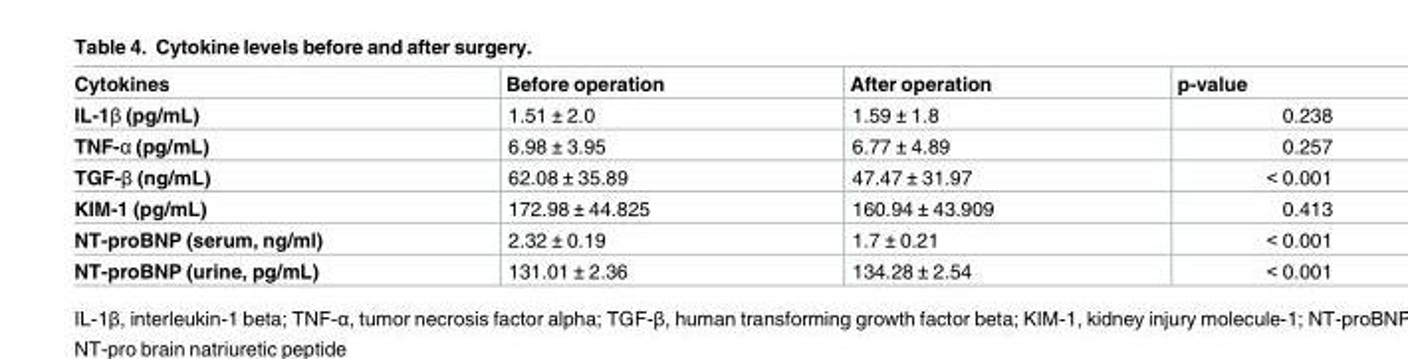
<table><thead><tr><td>Cytokines</td><td>Before operation</td><td>After operation</td><td>p-value</td></tr></thead><tbody><tr><td>IL-1β (pg/mL)</td><td>1.51 ± 2.0</td><td>1.59 ± 1.8</td><td>0.238</td></tr><tr><td>TNF-α (pg/mL)</td><td>6.98 ± 3.95</td><td>6.77 ± 4.89</td><td>0.257</td></tr><tr><td>TGF-β (ng/mL)</td><td>62.08 ± 35.89</td><td>47.47 ± 31.97</td><td>&lt; 0.001</td></tr><tr><td>KIM-1 (pg/mL)</td><td>172.98 ± 44.825</td><td>160.94 ± 43.909</td><td>0.413</td></tr><tr><td>NT-proBNP (serum, ng/ml)</td><td>2.32 ± 0.19</td><td>1.7 ± 0.21</td><td>&lt; 0.001</td></tr><tr><td>NT-proBNP (urine, pg/mL)</td><td>131.01 ± 2.36</td><td>134.28 ± 2.54</td><td>&lt; 0.001</td></tr></tbody></table>